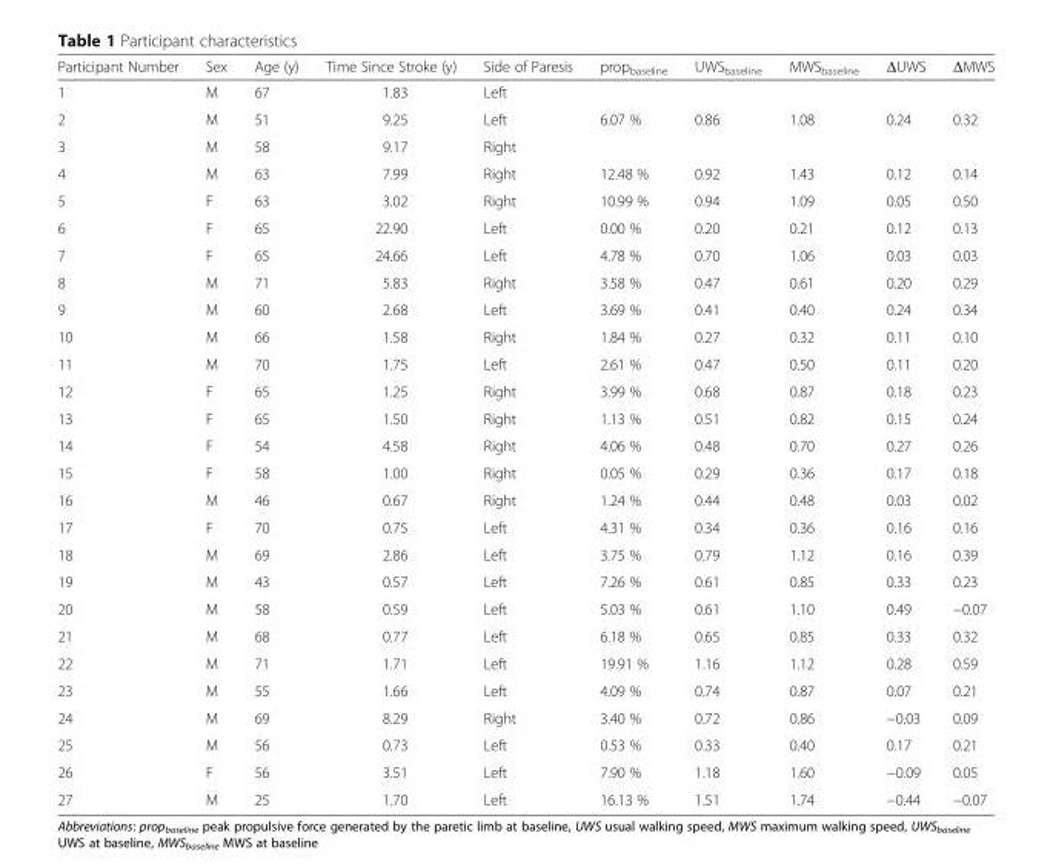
<table><thead><tr><td>Participant Number</td><td>Sex</td><td>Age (y)</td><td>Time Since Stroke (y)</td><td>Side of Paresis</td><td>prop<sub>baseline</sub></td><td>UWS<sub>baseline</sub></td><td>MWS<sub>baseline</sub></td><td>ΔUWS</td><td>ΔMWS</td></tr></thead><tbody><tr><td>1</td><td>M</td><td>67</td><td>1.83</td><td>Left</td><td></td><td></td><td></td><td></td><td></td></tr><tr><td>2</td><td>M</td><td>51</td><td>9.25</td><td>Left</td><td>6.07 %</td><td>0.86</td><td>1.08</td><td>0.24</td><td>0.32</td></tr><tr><td>3</td><td>M</td><td>58</td><td>9.17</td><td>Right</td><td></td><td></td><td></td><td></td><td></td></tr><tr><td>4</td><td>M</td><td>63</td><td>7.99</td><td>Right</td><td>12.48 %</td><td>0.92</td><td>1.43</td><td>0.12</td><td>0.14</td></tr><tr><td>5</td><td>F</td><td>63</td><td>3.02</td><td>Right</td><td>10.99 %</td><td>0.94</td><td>1.09</td><td>0.05</td><td>0.50</td></tr><tr><td>6</td><td>F</td><td>65</td><td>22.90</td><td>Left</td><td>0.00 %</td><td>0.20</td><td>0.21</td><td>0.12</td><td>0.13</td></tr><tr><td>7</td><td>F</td><td>65</td><td>24.66</td><td>Left</td><td>4.78 %</td><td>0.70</td><td>1.06</td><td>0.03</td><td>0.03</td></tr><tr><td>8</td><td>M</td><td>71</td><td>5.83</td><td>Right</td><td>3.58 %</td><td>0.47</td><td>0.61</td><td>0.20</td><td>0.29</td></tr><tr><td>9</td><td>M</td><td>60</td><td>2.68</td><td>Left</td><td>3.69 %</td><td>0.41</td><td>0.40</td><td>0.24</td><td>0.34</td></tr><tr><td>10</td><td>M</td><td>66</td><td>1.58</td><td>Right</td><td>1.84 %</td><td>0.27</td><td>0.32</td><td>0.11</td><td>0.10</td></tr><tr><td>11</td><td>M</td><td>70</td><td>1.75</td><td>Left</td><td>2.61 %</td><td>0.47</td><td>0.50</td><td>0.11</td><td>0.20</td></tr><tr><td>12</td><td>F</td><td>65</td><td>1.25</td><td>Right</td><td>3.99 %</td><td>0.68</td><td>0.87</td><td>0.18</td><td>0.23</td></tr><tr><td>13</td><td>F</td><td>65</td><td>1.50</td><td>Right</td><td>1.13 %</td><td>0.51</td><td>0.82</td><td>0.15</td><td>0.24</td></tr><tr><td>14</td><td>F</td><td>54</td><td>4.58</td><td>Right</td><td>4.06 %</td><td>0.48</td><td>0.70</td><td>0.27</td><td>0.26</td></tr><tr><td>15</td><td>F</td><td>58</td><td>1.00</td><td>Right</td><td>0.05 %</td><td>0.29</td><td>0.36</td><td>0.17</td><td>0.18</td></tr><tr><td>16</td><td>M</td><td>46</td><td>0.67</td><td>Right</td><td>1.24 %</td><td>0.44</td><td>0.48</td><td>0.03</td><td>0.02</td></tr><tr><td>17</td><td>F</td><td>70</td><td>0.75</td><td>Left</td><td>4.31 %</td><td>0.34</td><td>0.36</td><td>0.16</td><td>0.16</td></tr><tr><td>18</td><td>M</td><td>69</td><td>2.86</td><td>Left</td><td>3.75 %</td><td>0.79</td><td>1.12</td><td>0.16</td><td>0.39</td></tr><tr><td>19</td><td>M</td><td>43</td><td>0.57</td><td>Left</td><td>7.26 %</td><td>0.61</td><td>0.85</td><td>0.33</td><td>0.23</td></tr><tr><td>20</td><td>M</td><td>58</td><td>0.59</td><td>Left</td><td>5.03 %</td><td>0.61</td><td>1.10</td><td>0.49</td><td>−0.07</td></tr><tr><td>21</td><td>M</td><td>68</td><td>0.77</td><td>Left</td><td>6.18 %</td><td>0.65</td><td>0.85</td><td>0.33</td><td>0.32</td></tr><tr><td>22</td><td>M</td><td>71</td><td>1.71</td><td>Left</td><td>19.91 %</td><td>1.16</td><td>1.12</td><td>0.28</td><td>0.59</td></tr><tr><td>23</td><td>M</td><td>55</td><td>1.66</td><td>Left</td><td>4.09 %</td><td>0.74</td><td>0.87</td><td>0.07</td><td>0.21</td></tr><tr><td>24</td><td>M</td><td>69</td><td>8.29</td><td>Right</td><td>3.40 %</td><td>0.72</td><td>0.86</td><td>−0.03</td><td>0.09</td></tr><tr><td>25</td><td>M</td><td>56</td><td>0.73</td><td>Left</td><td>0.53 %</td><td>0.33</td><td>0.40</td><td>0.17</td><td>0.21</td></tr><tr><td>26</td><td>F</td><td>56</td><td>3.51</td><td>Left</td><td>7.90 %</td><td>1.18</td><td>1.60</td><td>−0.09</td><td>0.05</td></tr><tr><td>27</td><td>M</td><td>25</td><td>1.70</td><td>Left</td><td>16.13 %</td><td>1.51</td><td>1.74</td><td>−0.44</td><td>−0.07</td></tr></tbody></table>